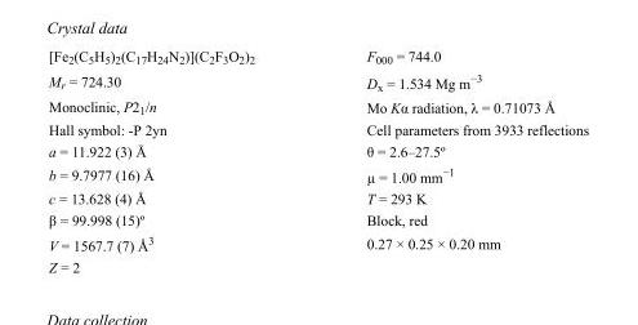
<table><tbody><tr><td>[Fe<sub>2</sub>(C<sub>5</sub>H<sub>5</sub>)<sub>2</sub>(C<sub>17</sub>H<sub>24</sub>N<sub>2</sub>)](C<sub>2</sub>F<sub>3</sub>O<sub>2</sub>)<sub>2</sub></td><td>F000 = 744.0</td></tr><tr><td>M<sub>r</sub> = 724.30</td><td>D<sub>x</sub> = 1.534 Mg m<sup>−3</sup></td></tr><tr><td>Monoclinic, P2<sub>1</sub>/n</td><td>Mo Kα radiation, λ = 0.71073 Å</td></tr><tr><td>Hall symbol: -P 2yn</td><td>Cell parameters from 3933 reflections</td></tr><tr><td>a = 11.922 (3) Å</td><td>θ = 2.6–27.5º</td></tr><tr><td>b = 9.7977 (16) Å</td><td>µ = 1.00 mm<sup>−1</sup></td></tr><tr><td>c = 13.628 (4) Å</td><td>T = 293 K</td></tr><tr><td>β = 99.998 (15)º</td><td>Block, red</td></tr><tr><td>V = 1567.7 (7) Å<sup>3</sup></td><td>0.27 × 0.25 × 0.20 mm</td></tr><tr><td>Z = 2</td><td></td></tr></tbody></table>